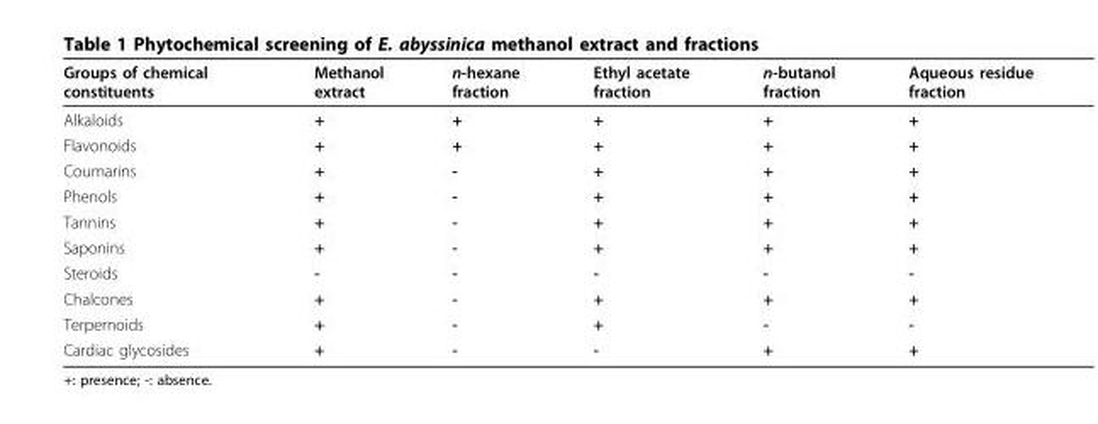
<table><thead><tr><td>Groups of chemical constituents</td><td>Methanol extract</td><td>n-hexane fraction</td><td>Ethyl acetate fraction</td><td>n-butanol fraction</td><td>Aqueous residue fraction</td></tr></thead><tbody><tr><td>Alkaloids</td><td>+</td><td>+</td><td>+</td><td>+</td><td>+</td></tr><tr><td>Flavonoids</td><td>+</td><td>+</td><td>+</td><td>+</td><td>+</td></tr><tr><td>Coumarins</td><td>+</td><td>-</td><td>+</td><td>+</td><td>+</td></tr><tr><td>Phenols</td><td>+</td><td>-</td><td>+</td><td>+</td><td>+</td></tr><tr><td>Tannins</td><td>+</td><td>-</td><td>+</td><td>+</td><td>+</td></tr><tr><td>Saponins</td><td>+</td><td>-</td><td>+</td><td>+</td><td>+</td></tr><tr><td>Steroids</td><td>-</td><td>-</td><td>-</td><td>-</td><td>-</td></tr><tr><td>Chalcones</td><td>+</td><td>-</td><td>+</td><td>+</td><td>+</td></tr><tr><td>Terpernoids</td><td>+</td><td>-</td><td>+</td><td>-</td><td>-</td></tr><tr><td>Cardiac glycosides</td><td>+</td><td>-</td><td>-</td><td>+</td><td>+</td></tr></tbody></table>